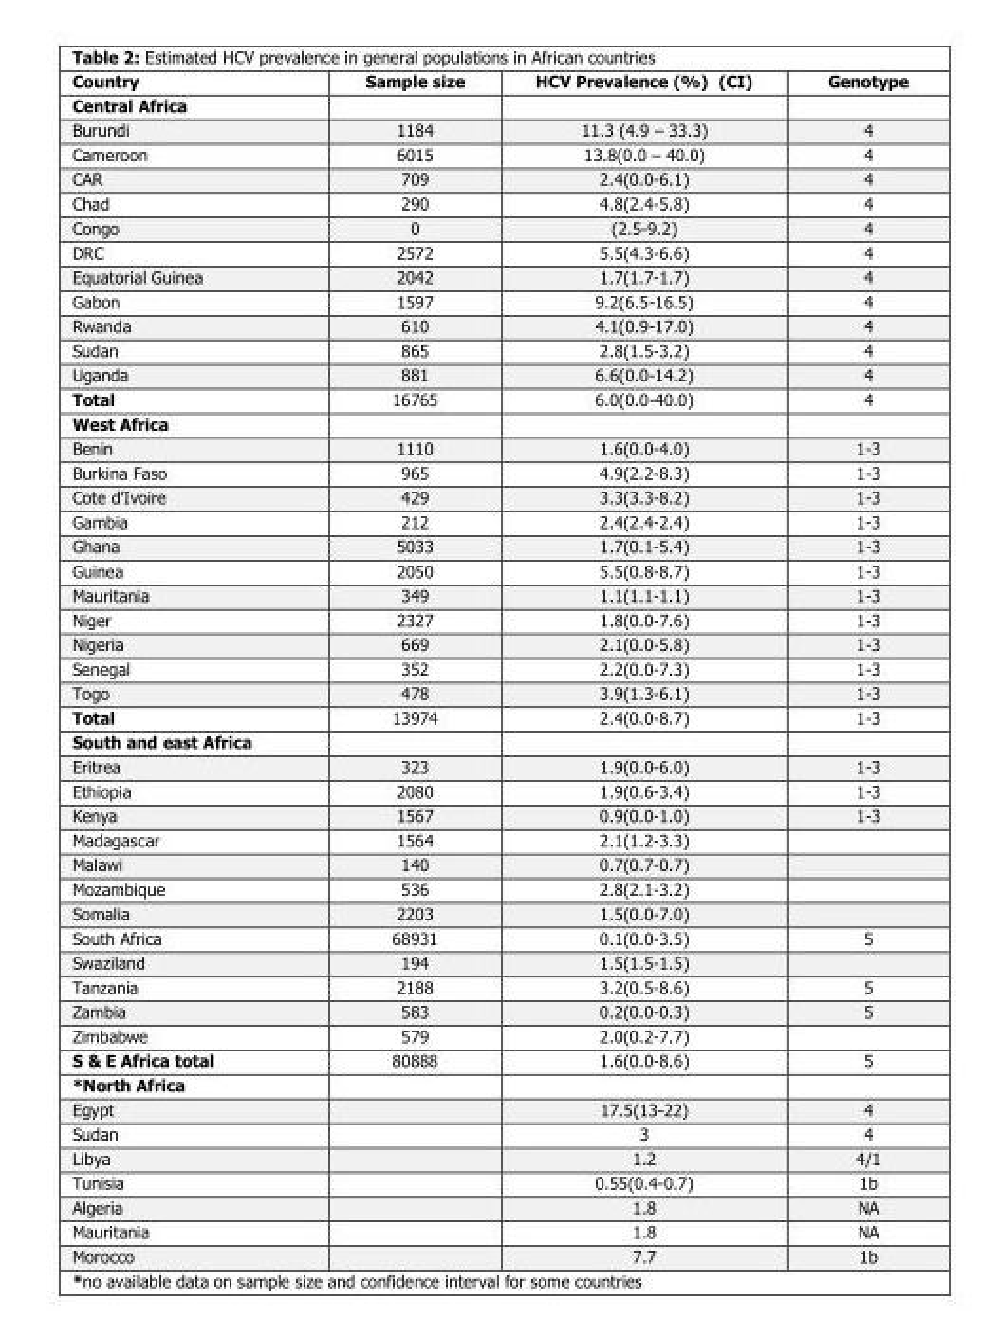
<table><thead><tr><td>Country</td><td>Sample size</td><td>HCV Prevalence (%) (CI)</td><td>Genotype</td></tr></thead><tbody><tr><td colspan="4">Central Africa</td></tr><tr><td>Burundi</td><td>1184</td><td>11.3 (4.9 – 33.3)</td><td>4</td></tr><tr><td>Cameroon</td><td>6015</td><td>13.8(0.0 – 40.0)</td><td>4</td></tr><tr><td>CAR</td><td>709</td><td>2.4(0.0-6.1)</td><td>4</td></tr><tr><td>Chad</td><td>290</td><td>4.8(2.4-5.8)</td><td>4</td></tr><tr><td>Congo</td><td>0</td><td>(2.5-9.2)</td><td>4</td></tr><tr><td>DRC</td><td>2572</td><td>5.5(4.3-6.6)</td><td>4</td></tr><tr><td>Equatorial Guinea</td><td>2042</td><td>1.7(1.7-1.7)</td><td>4</td></tr><tr><td>Gabon</td><td>1597</td><td>9.2(6.5-16.5)</td><td>4</td></tr><tr><td>Rwanda</td><td>610</td><td>4.1(0.9-17.0)</td><td>4</td></tr><tr><td>Sudan</td><td>865</td><td>2.8(1.5-3.2)</td><td>4</td></tr><tr><td>Uganda</td><td>881</td><td>6.6(0.0-14.2)</td><td>4</td></tr><tr><td>Total</td><td>16765</td><td>6.0(0.0-40.0)</td><td>4</td></tr><tr><td colspan="4">West Africa</td></tr><tr><td>Benin</td><td>1110</td><td>1.6(0.0-4.0)</td><td>1-3</td></tr><tr><td>Burkina Faso</td><td>965</td><td>4.9(2.2-8.3)</td><td>1-3</td></tr><tr><td>Cote d’Ivoire</td><td>429</td><td>3.3(3.3-8.2)</td><td>1-3</td></tr><tr><td>Gambia</td><td>212</td><td>2.4(2.4-2.4)</td><td>1-3</td></tr><tr><td>Ghana</td><td>5033</td><td>1.7(0.1-5.4)</td><td>1-3</td></tr><tr><td>Guinea</td><td>2050</td><td>5.5(0.8-8.7)</td><td>1-3</td></tr><tr><td>Mauritania</td><td>349</td><td>1.1(1.1-1.1)</td><td>1-3</td></tr><tr><td>Niger</td><td>2327</td><td>1.8(0.0-7.6)</td><td>1-3</td></tr><tr><td>Nigeria</td><td>669</td><td>2.1(0.0-5.8)</td><td>1-3</td></tr><tr><td>Senegal</td><td>352</td><td>2.2(0.0-7.3)</td><td>1-3</td></tr><tr><td>Togo</td><td>478</td><td>3.9(1.3-6.1)</td><td>1-3</td></tr><tr><td>Total</td><td>13974</td><td>2.4(0.0-8.7)</td><td>1-3</td></tr><tr><td colspan="4">South and east Africa</td></tr><tr><td>Eritrea</td><td>323</td><td>1.9(0.0-6.0)</td><td>1-3</td></tr><tr><td>Ethiopia</td><td>2080</td><td>1.9(0.6-3.4)</td><td>1-3</td></tr><tr><td>Kenya</td><td>1567</td><td>0.9(0.0-1.0)</td><td>1-3</td></tr><tr><td>Madagascar</td><td>1564</td><td>2.1(1.2-3.3)</td><td></td></tr><tr><td>Malawi</td><td>140</td><td>0.7(0.7-0.7)</td><td></td></tr><tr><td>Mozambique</td><td>536</td><td>2.8(2.1-3.2)</td><td></td></tr><tr><td>Somalia</td><td>2203</td><td>1.5(0.0-7.0)</td><td></td></tr><tr><td>South Africa</td><td>68931</td><td>0.1(0.0-3.5)</td><td>5</td></tr><tr><td>Swaziland</td><td>194</td><td>1.5(1.5-1.5)</td><td></td></tr><tr><td>Tanzania</td><td>2188</td><td>3.2(0.5-8.6)</td><td>5</td></tr><tr><td>Zambia</td><td>583</td><td>0.2(0.0-0.3)</td><td>5</td></tr><tr><td>Zimbabwe</td><td>579</td><td>2.0(0.2-7.7)</td><td></td></tr><tr><td>S &amp; E Africa total</td><td>80888</td><td>1.6(0.0-8.6)</td><td>5</td></tr><tr><td colspan="4">*North Africa</td></tr><tr><td>Egypt</td><td></td><td>17.5(13-22)</td><td>4</td></tr><tr><td>Sudan</td><td></td><td>3</td><td>4</td></tr><tr><td>Libya</td><td></td><td>1.2</td><td>4/1</td></tr><tr><td>Tunisia</td><td></td><td>0.55(0.4-0.7)</td><td>1b</td></tr><tr><td>Algeria</td><td></td><td>1.8</td><td>NA</td></tr><tr><td>Mauritania</td><td></td><td>1.8</td><td>NA</td></tr><tr><td>Morocco</td><td></td><td>7.7</td><td>1b</td></tr></tbody></table>